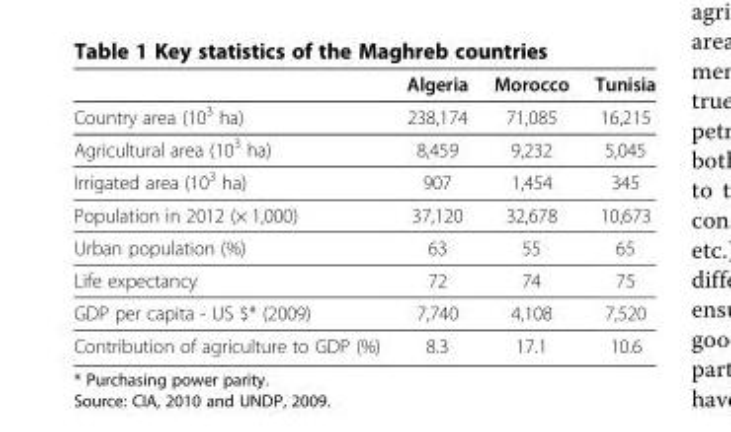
<table><thead><tr><td></td><td>Algeria</td><td>Morocco</td><td>Tunisia</td></tr></thead><tbody><tr><td>Country area (10<sup>3</sup> ha)</td><td>238,174</td><td>71,085</td><td>16,215</td></tr><tr><td>Agricultural area (10<sup>3</sup> ha)</td><td>8,459</td><td>9,232</td><td>5,045</td></tr><tr><td>Irrigated area (10<sup>3</sup> ha)</td><td>907</td><td>1,454</td><td>345</td></tr><tr><td>Population in 2012 (× 1,000)</td><td>37,120</td><td>32,678</td><td>10,673</td></tr><tr><td>Urban population (%)</td><td>63</td><td>55</td><td>65</td></tr><tr><td>Life expectancy</td><td>72</td><td>74</td><td>75</td></tr><tr><td>GDP per capita - US $* (2009)</td><td>7,740</td><td>4,108</td><td>7,520</td></tr><tr><td>Contribution of agriculture to GDP (%)</td><td>8.3</td><td>17.1</td><td>10.6</td></tr></tbody></table>